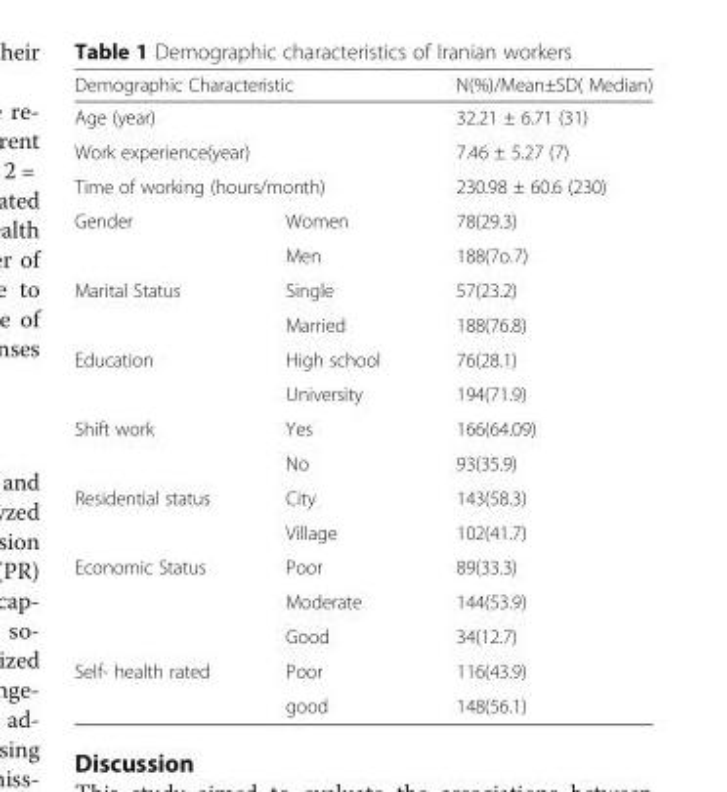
<table><thead><tr><td colspan="2">Demographic Characteristic</td><td>N(%)/Mean±SD( Median)</td></tr></thead><tbody><tr><td colspan="2">Age (year)</td><td>32.21 ± 6.71 (31)</td></tr><tr><td colspan="2">Work experience(year)</td><td>7.46 ± 5.27 (7)</td></tr><tr><td colspan="2">Time of working (hours/month)</td><td>230.98 ± 60.6 (230)</td></tr><tr><td rowspan="2">Gender</td><td>Women</td><td>78(29.3)</td></tr><tr><td>Men</td><td>188(7o.7)</td></tr><tr><td rowspan="2">Marital Status</td><td>Single</td><td>57(23.2)</td></tr><tr><td>Married</td><td>188(76.8)</td></tr><tr><td rowspan="2">Education</td><td>High school</td><td>76(28.1)</td></tr><tr><td>University</td><td>194(71.9)</td></tr><tr><td rowspan="2">Shift work</td><td>Yes</td><td>166(64.09)</td></tr><tr><td>No</td><td>93(35.9)</td></tr><tr><td rowspan="2">Residential status</td><td>City</td><td>143(58.3)</td></tr><tr><td>Village</td><td>102(41.7)</td></tr><tr><td rowspan="3">Economic Status</td><td>Poor</td><td>89(33.3)</td></tr><tr><td>Moderate</td><td>144(53.9)</td></tr><tr><td>Good</td><td>34(12.7)</td></tr><tr><td rowspan="2">Self- health rated</td><td>Poor</td><td>116(43.9)</td></tr><tr><td>good</td><td>148(56.1)</td></tr></tbody></table>